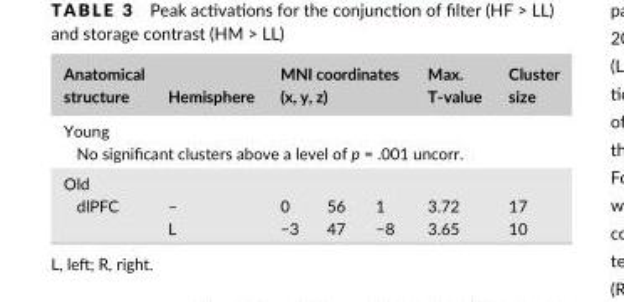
<table><thead><tr><td>Anatomical structure</td><td>Hemisphere</td><td colspan="3">MNI coordinates (x, y, z)</td><td>Max. T- value</td><td>Cluster size</td></tr></thead><tbody><tr><td colspan="7">Young</td></tr><tr><td colspan="7">No significant clusters above a level of p = .001 uncorr.</td></tr><tr><td colspan="7">Old</td></tr><tr><td rowspan="2">dlPFC</td><td>–</td><td>0</td><td>56</td><td>1</td><td>3.72</td><td>17</td></tr><tr><td>L</td><td>−3</td><td>47</td><td>−8</td><td>3.65</td><td>10</td></tr></tbody></table>